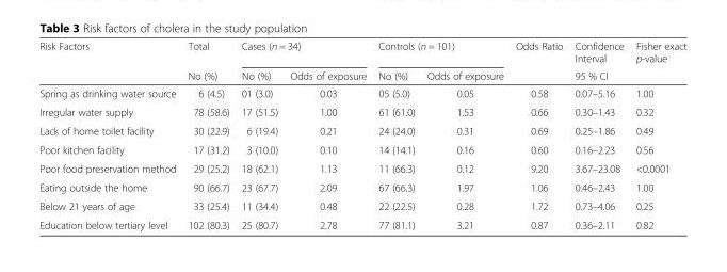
<table><thead><tr><td rowspan="2">Risk Factors</td><td rowspan="2">Total No (%)</td><td colspan="2">Cases (n = 34)</td><td colspan="2">Controls (n = 101)</td><td rowspan="2">Odds Ratio</td><td rowspan="2">Confidence Interval 95 % CI</td><td rowspan="2">Fisher exact p-value</td></tr><tr><td>No (%)</td><td>Odds of exposure</td><td>No (%)</td><td>Odds of exposure</td></tr></thead><tbody><tr><td>Spring as drinking water source</td><td>6 (4.5)</td><td>01 (3.0)</td><td>0.03</td><td>05 (5.0)</td><td>0.05</td><td>0.58</td><td>0.07–5.16</td><td>1.00</td></tr><tr><td>Irregular water supply</td><td>78 (58.6)</td><td>17 (51.5)</td><td>1.00</td><td>61 (61.0)</td><td>1.53</td><td>0.66</td><td>0.30–1.43</td><td>0.32</td></tr><tr><td>Lack of home toilet facility</td><td>30 (22.9)</td><td>6 (19.4)</td><td>0.21</td><td>24 (24.0)</td><td>0.31</td><td>0.69</td><td>0.25–1.86</td><td>0.49</td></tr><tr><td>Poor kitchen facility</td><td>17 (31.2)</td><td>3 (10.0)</td><td>0.10</td><td>14 (14.1)</td><td>0.16</td><td>0.60</td><td>0.16–2.23</td><td>0.56</td></tr><tr><td>Poor food preservation method</td><td>29 (25.2)</td><td>18 (62.1)</td><td>1.13</td><td>11 (66.3)</td><td>0.12</td><td>9.20</td><td>3.67–23.08</td><td>&lt;0.0001</td></tr><tr><td>Eating outside the home</td><td>90 (66.7)</td><td>23 (67.7)</td><td>2.09</td><td>67 (66.3)</td><td>1.97</td><td>1.06</td><td>0.46–2.43</td><td>1.00</td></tr><tr><td>Below 21 years of age</td><td>33 (25.4)</td><td>11 (34.4)</td><td>0.48</td><td>22 (22.5)</td><td>0.28</td><td>1.72</td><td>0.73–4.06</td><td>0.25</td></tr><tr><td>Education below tertiary level</td><td>102 (80.3)</td><td>25 (80.7)</td><td>2.78</td><td>77 (81.1)</td><td>3.21</td><td>0.87</td><td>0.36–2.11</td><td>0.82</td></tr></tbody></table>